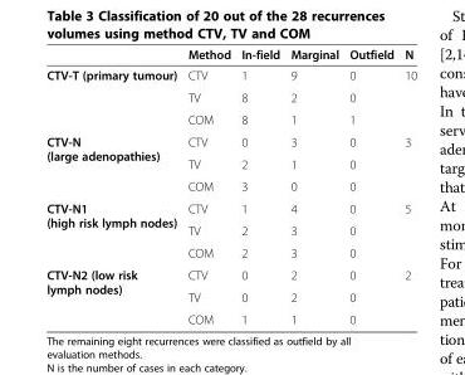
<table><thead><tr><td></td><td>Method</td><td>In-field</td><td>Marginal</td><td>Outfield</td><td>N</td></tr></thead><tbody><tr><td rowspan="3">CTV-T (primary tumour)</td><td>CTV</td><td>1</td><td>9</td><td>0</td><td rowspan="3">10</td></tr><tr><td>TV</td><td>8</td><td>2</td><td>0</td></tr><tr><td>COM</td><td>8</td><td>1</td><td>1</td></tr><tr><td rowspan="3">CTV-N (large adenopathies)</td><td>CTV</td><td>0</td><td>3</td><td>0</td><td rowspan="3">3</td></tr><tr><td>TV</td><td>2</td><td>1</td><td>0</td></tr><tr><td>COM</td><td>3</td><td>0</td><td>0</td></tr><tr><td rowspan="3">CTV-N1 (high risk lymph nodes)</td><td>CTV</td><td>1</td><td>4</td><td>0</td><td rowspan="3">5</td></tr><tr><td>TV</td><td>2</td><td>3</td><td>0</td></tr><tr><td>COM</td><td>2</td><td>3</td><td>0</td></tr><tr><td rowspan="3">CTV-N2 (low risk lymph nodes)</td><td>CTV</td><td>0</td><td>2</td><td>0</td><td rowspan="3">2</td></tr><tr><td>TV</td><td>0</td><td>2</td><td>0</td></tr><tr><td>COM</td><td>1</td><td>1</td><td>0</td></tr></tbody></table>